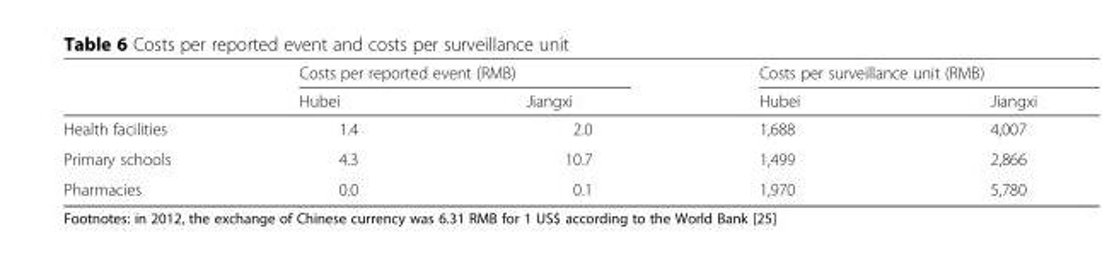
<table><thead><tr><td rowspan="2"></td><td colspan="2">Costs per reported event (RMB)</td><td colspan="2">Costs per surveillance unit (RMB)</td></tr><tr><td>Hubei</td><td>Jiangxi</td><td>Hubei</td><td>Jiangxi</td></tr></thead><tbody><tr><td>Health facilities</td><td>1.4</td><td>2.0</td><td>1,688</td><td>4,007</td></tr><tr><td>Primary schools</td><td>4.3</td><td>10.7</td><td>1,499</td><td>2,866</td></tr><tr><td>Pharmacies</td><td>0.0</td><td>0.1</td><td>1,970</td><td>5,780</td></tr></tbody></table>